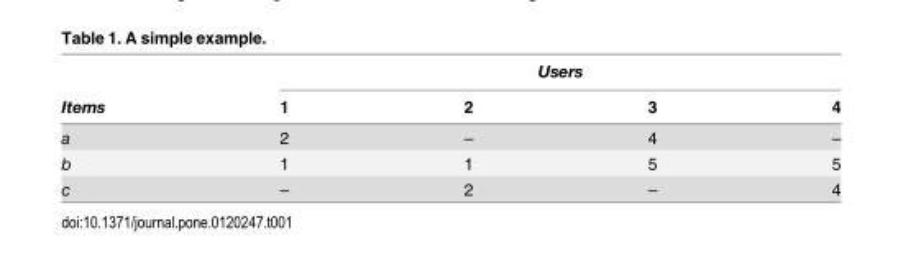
<table><thead><tr><td rowspan="2">Items</td><td colspan="4">Users</td></tr><tr><td>1</td><td>2</td><td>3</td><td>4</td></tr></thead><tbody><tr><td>a</td><td>2</td><td>–</td><td>4</td><td>–</td></tr><tr><td>b</td><td>1</td><td>1</td><td>5</td><td>5</td></tr><tr><td>c</td><td>–</td><td>2</td><td>–</td><td>4</td></tr></tbody></table>